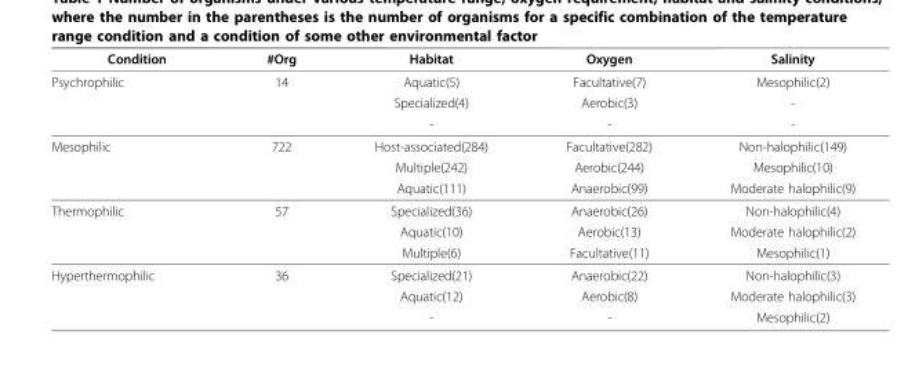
<table><thead><tr><td>Condition</td><td>#Org</td><td>Habitat</td><td>Oxygen</td><td>Salinity</td></tr></thead><tbody><tr><td rowspan="3">Psychrophilic</td><td rowspan="3">14</td><td>Aquatic(5)</td><td>Facultative(7)</td><td>Mesophilic(2)</td></tr><tr><td>Specialized(4)</td><td>Aerobic(3)</td><td>-</td></tr><tr><td>-</td><td>-</td><td>-</td></tr><tr><td rowspan="3">Mesophilic</td><td rowspan="3">722</td><td>Host-associated(284)</td><td>Facultative(282)</td><td>Non-halophilic(149)</td></tr><tr><td>Multiple(242)</td><td>Aerobic(244)</td><td>Mesophilic(10)</td></tr><tr><td>Aquatic(111)</td><td>Anaerobic(99)</td><td>Moderate halophilic(9)</td></tr><tr><td rowspan="3">Thermophilic</td><td rowspan="3">57</td><td>Specialized(36)</td><td>Anaerobic(26)</td><td>Non-halophilic(4)</td></tr><tr><td>Aquatic(10)</td><td>Aerobic(13)</td><td>Moderate halophilic(2)</td></tr><tr><td>Multiple(6)</td><td>Facultative(11)</td><td>Mesophilic(1)</td></tr><tr><td rowspan="3">Hyperthermophilic</td><td rowspan="3">36</td><td>Specialized(21)</td><td>Anaerobic(22)</td><td>Non-halophilic(3)</td></tr><tr><td>Aquatic(12)</td><td>Aerobic(8)</td><td>Moderate halophilic(3)</td></tr><tr><td>-</td><td>-</td><td>Mesophilic(2)</td></tr></tbody></table>